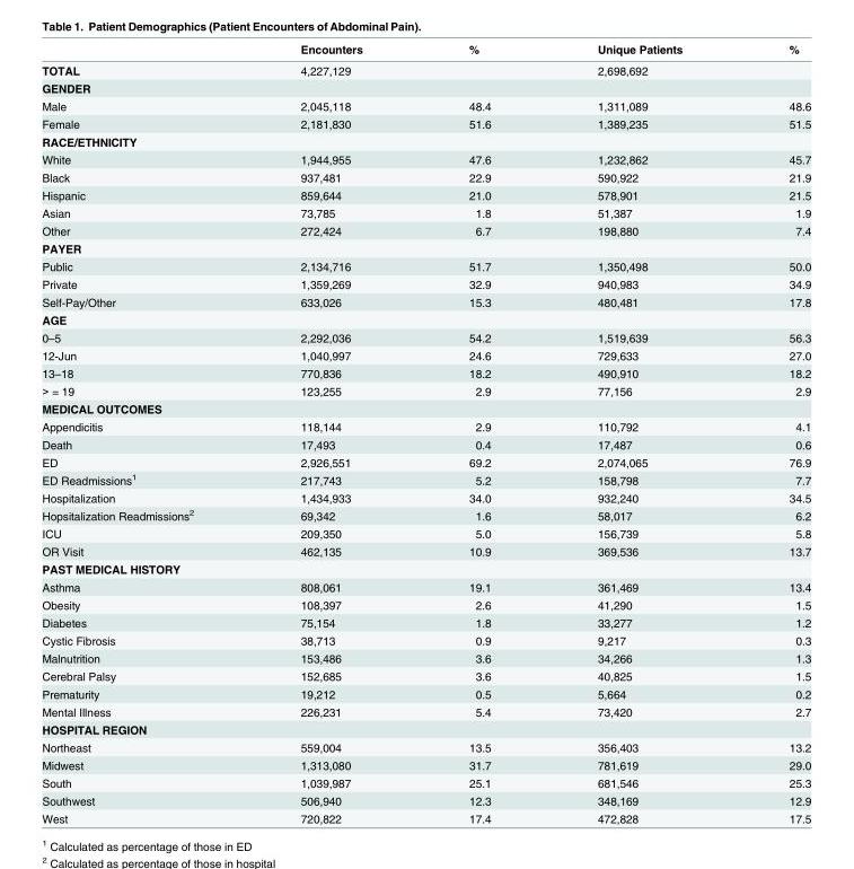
<table><thead><tr><td></td><td>Encounters</td><td>%</td><td>Unique Patients</td><td>%</td></tr></thead><tbody><tr><td>TOTAL</td><td>4,227,129</td><td></td><td>2,698,692</td><td></td></tr><tr><td colspan="5">GENDER</td></tr><tr><td>Male</td><td>2,045,118</td><td>48.4</td><td>1,311,089</td><td>48.6</td></tr><tr><td>Female</td><td>2,181,830</td><td>51.6</td><td>1,389,235</td><td>51.5</td></tr><tr><td colspan="5">RACE/ETHNICITY</td></tr><tr><td>White</td><td>1,944,955</td><td>47.6</td><td>1,232,862</td><td>45.7</td></tr><tr><td>Black</td><td>937,481</td><td>22.9</td><td>590,922</td><td>21.9</td></tr><tr><td>Hispanic</td><td>859,644</td><td>21.0</td><td>578,901</td><td>21.5</td></tr><tr><td>Asian</td><td>73,785</td><td>1.8</td><td>51,387</td><td>1.9</td></tr><tr><td>Other</td><td>272,424</td><td>6.7</td><td>198,880</td><td>7.4</td></tr><tr><td colspan="5">PAYER</td></tr><tr><td>Public</td><td>2,134,716</td><td>51.7</td><td>1,350,498</td><td>50.0</td></tr><tr><td>Private</td><td>1,359,269</td><td>32.9</td><td>940,983</td><td>34.9</td></tr><tr><td>Self-Pay/Other</td><td>633,026</td><td>15.3</td><td>480,481</td><td>17.8</td></tr><tr><td colspan="5">AGE</td></tr><tr><td>0–5</td><td>2,292,036</td><td>54.2</td><td>1,519,639</td><td>56.3</td></tr><tr><td>12-Jun</td><td>1,040,997</td><td>24.6</td><td>729,633</td><td>27.0</td></tr><tr><td>13–18</td><td>770,836</td><td>18.2</td><td>490,910</td><td>18.2</td></tr><tr><td>&gt; = 19</td><td>123,255</td><td>2.9</td><td>77,156</td><td>2.9</td></tr><tr><td colspan="5">MEDICAL OUTCOMES</td></tr><tr><td>Appendicitis</td><td>118,144</td><td>2.9</td><td>110,792</td><td>4.1</td></tr><tr><td>Death</td><td>17,493</td><td>0.4</td><td>17,487</td><td>0.6</td></tr><tr><td>ED</td><td>2,926,551</td><td>69.2</td><td>2,074,065</td><td>76.9</td></tr><tr><td>ED Readmissions<sup>1</sup></td><td>217,743</td><td>5.2</td><td>158,798</td><td>7.7</td></tr><tr><td>Hospitalization</td><td>1,434,933</td><td>34.0</td><td>932,240</td><td>34.5</td></tr><tr><td>Hopsitalization Readmissions<sup>2</sup></td><td>69,342</td><td>1.6</td><td>58,017</td><td>6.2</td></tr><tr><td>ICU</td><td>209,350</td><td>5.0</td><td>156,739</td><td>5.8</td></tr><tr><td>OR Visit</td><td>462,135</td><td>10.9</td><td>369,536</td><td>13.7</td></tr><tr><td colspan="5">PAST MEDICAL HISTORY</td></tr><tr><td>Asthma</td><td>808,061</td><td>19.1</td><td>361,469</td><td>13.4</td></tr><tr><td>Obesity</td><td>108,397</td><td>2.6</td><td>41,290</td><td>1.5</td></tr><tr><td>Diabetes</td><td>75,154</td><td>1.8</td><td>33,277</td><td>1.2</td></tr><tr><td>Cystic Fibrosis</td><td>38,713</td><td>0.9</td><td>9,217</td><td>0.3</td></tr><tr><td>Malnutrition</td><td>153,486</td><td>3.6</td><td>34,266</td><td>1.3</td></tr><tr><td>Cerebral Palsy</td><td>152,685</td><td>3.6</td><td>40,825</td><td>1.5</td></tr><tr><td>Prematurity</td><td>19,212</td><td>0.5</td><td>5,664</td><td>0.2</td></tr><tr><td>Mental Illness</td><td>226,231</td><td>5.4</td><td>73,420</td><td>2.7</td></tr><tr><td colspan="5">HOSPITAL REGION</td></tr><tr><td>Northeast</td><td>559,004</td><td>13.5</td><td>356,403</td><td>13.2</td></tr><tr><td>Midwest</td><td>1,313,080</td><td>31.7</td><td>781,619</td><td>29.0</td></tr><tr><td>South</td><td>1,039,987</td><td>25.1</td><td>681,546</td><td>25.3</td></tr><tr><td>Southwest</td><td>506,940</td><td>12.3</td><td>348,169</td><td>12.9</td></tr><tr><td>West</td><td>720,822</td><td>17.4</td><td>472,828</td><td>17.5</td></tr></tbody></table>